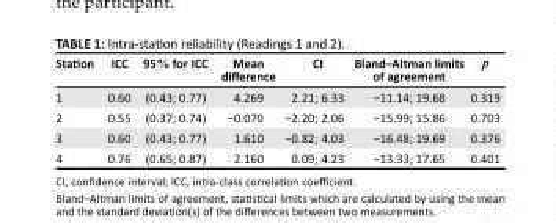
<table><thead><tr><td>Station</td><td>ICC</td><td>95% for ICC</td><td>Mean difference</td><td>CI</td><td>Bland–Altman limits of agreement</td><td>p</td></tr></thead><tbody><tr><td>1</td><td>0.60</td><td>(0.43; 0.77)</td><td>4.269</td><td>2.21; 6.33</td><td>−11.14; 19.68</td><td>0.319</td></tr><tr><td>2</td><td>0.55</td><td>(0.37; 0.74)</td><td>−0.070</td><td>−2.20; 2.06</td><td>−15.99; 15.86</td><td>0.703</td></tr><tr><td>3</td><td>0.60</td><td>(0.43; 0.77)</td><td>1.610</td><td>−0.82; 4.03</td><td>−16.48; 19.69</td><td>0.376</td></tr><tr><td>4</td><td>0.76</td><td>(0.65; 0.87)</td><td>2.160</td><td>0.09; 4.23</td><td>−13.33; 17.65</td><td>0.401</td></tr></tbody></table>